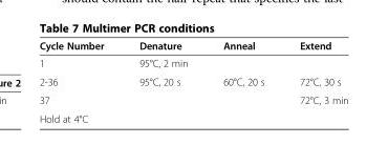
<table><thead><tr><td>Cycle Number</td><td>Denature</td><td>Anneal</td><td>Extend</td></tr></thead><tbody><tr><td>1</td><td>95°C, 2 min</td><td></td><td></td></tr><tr><td>2-36</td><td>95°C, 20 s</td><td>60°C, 20 s</td><td>72°C, 30 s</td></tr><tr><td>37</td><td></td><td></td><td>72°C, 3 min</td></tr><tr><td>Hold at 4°C</td><td></td><td></td><td></td></tr></tbody></table>